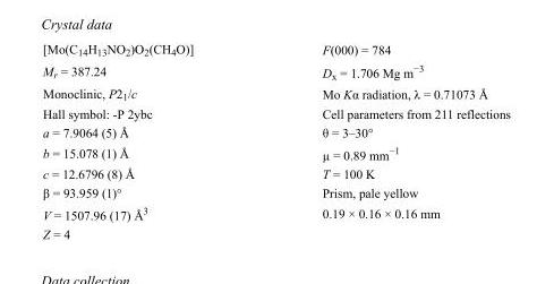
<table><tbody><tr><td>[Mo(C<sub>14</sub>H<sub>13</sub>NO<sub>2</sub>)O<sub>2</sub>(CH<sub>4</sub>O)]</td><td>F(000) = 784</td></tr><tr><td>M<sub>r</sub> = 387.24</td><td>D<sub>x</sub> = 1.706 Mg m<sup>−3</sup></td></tr><tr><td>Monoclinic, P2<sub>1</sub>/c</td><td>Mo Kα radiation, λ = 0.71073 Å</td></tr><tr><td>Hall symbol: -P 2ybc</td><td>Cell parameters from 211 reflections</td></tr><tr><td>a = 7.9064 (5) Å</td><td>θ = 3–30°</td></tr><tr><td>b = 15.078 (1) Å</td><td>µ = 0.89 mm<sup>−1</sup></td></tr><tr><td>c = 12.6796 (8) Å</td><td>T = 100 K</td></tr><tr><td>β = 93.959 (1)°</td><td>Prism, pale yellow</td></tr><tr><td>V = 1507.96 (17) Å<sup>3</sup></td><td>0.19 × 0.16 × 0.16 mm</td></tr><tr><td>Z = 4</td><td></td></tr></tbody></table>